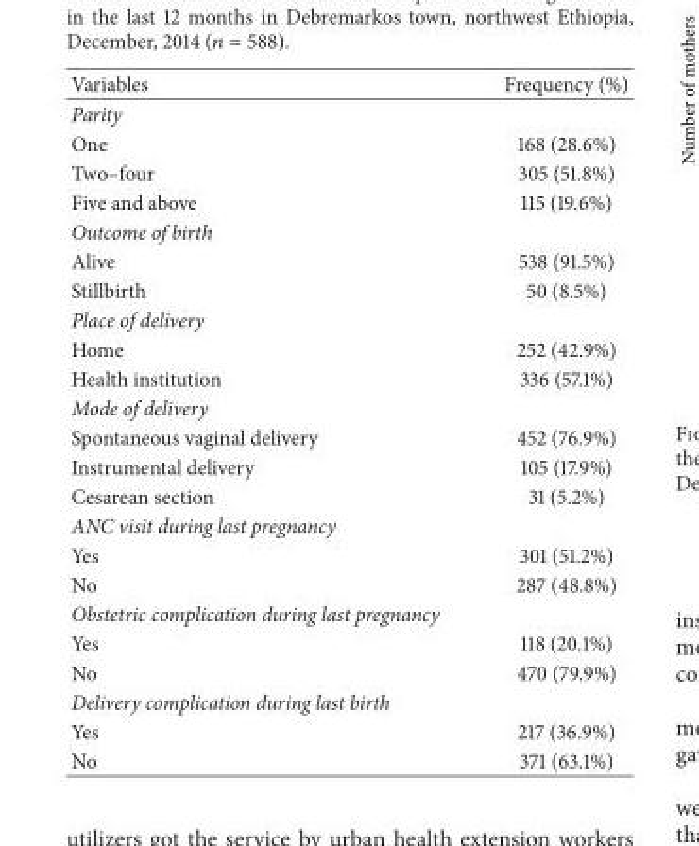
<table><thead><tr><td>Variables</td><td>Frequency (%)</td></tr></thead><tbody><tr><td colspan="2">Parity</td></tr><tr><td>One</td><td>168 (28.6%)</td></tr><tr><td>Two–four</td><td>305 (51.8%)</td></tr><tr><td>Five and above</td><td>115 (19.6%)</td></tr><tr><td colspan="2">Outcome of birth</td></tr><tr><td>Alive</td><td>538 (91.5%)</td></tr><tr><td>Stillbirth</td><td>50 (8.5%)</td></tr><tr><td colspan="2">Place of delivery</td></tr><tr><td>Home</td><td>252 (42.9%)</td></tr><tr><td>Health institution</td><td>336 (57.1%)</td></tr><tr><td colspan="2">Mode of delivery</td></tr><tr><td>Spontaneous vaginal delivery</td><td>452 (76.9%)</td></tr><tr><td>Instrumental delivery</td><td>105 (17.9%)</td></tr><tr><td>Cesarean section</td><td>31 (5.2%)</td></tr><tr><td colspan="2">ANC visit during last pregnancy</td></tr><tr><td>Yes</td><td>301 (51.2%)</td></tr><tr><td>No</td><td>287 (48.8%)</td></tr><tr><td colspan="2">Obstetric complication during last pregnancy</td></tr><tr><td>Yes</td><td>118 (20.1%)</td></tr><tr><td>No</td><td>470 (79.9%)</td></tr><tr><td colspan="2">Delivery complication during last birth</td></tr><tr><td>Yes</td><td>217 (36.9%)</td></tr><tr><td>No</td><td>371 (63.1%)</td></tr></tbody></table>